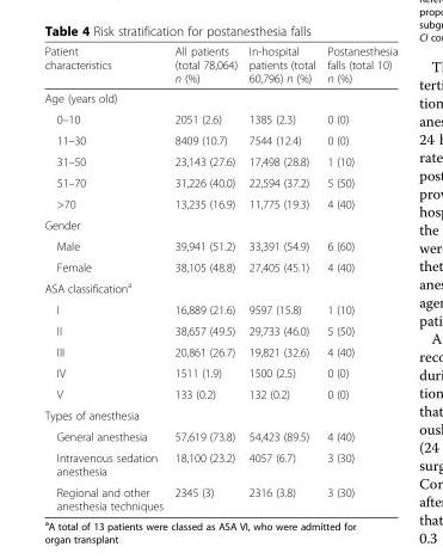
<table><thead><tr><td>Patient characteristics</td><td>All patients (total 78,064) n (%)</td><td>In-hospital patients (total 60,796) n (%)</td><td>Postanesthesia falls (total 10) n (%)</td></tr></thead><tbody><tr><td colspan="4">Age (years old)</td></tr><tr><td>0–10</td><td>2051 (2.6)</td><td>1385 (2.3)</td><td>0 (0)</td></tr><tr><td>11–30</td><td>8409 (10.7)</td><td>7544 (12.4)</td><td>0 (0)</td></tr><tr><td>31–50</td><td>23,143 (27.6)</td><td>17,498 (28.8)</td><td>1 (10)</td></tr><tr><td>51–70</td><td>31,226 (40.0)</td><td>22,594 (37.2)</td><td>5 (50)</td></tr><tr><td>&gt;70</td><td>13,235 (16.9)</td><td>11,775 (19.3)</td><td>4 (40)</td></tr><tr><td colspan="4">Gender</td></tr><tr><td>Male</td><td>39,941 (51.2)</td><td>33,391 (54.9)</td><td>6 (60)</td></tr><tr><td>Female</td><td>38,105 (48.8)</td><td>27,405 (45.1)</td><td>4 (40)</td></tr><tr><td colspan="4">ASA classification<sup>a</sup></td></tr><tr><td>I</td><td>16,889 (21.6)</td><td>9597 (15.8)</td><td>1 (10)</td></tr><tr><td>II</td><td>38,657 (49.5)</td><td>29,733 (46.0)</td><td>5 (50)</td></tr><tr><td>III</td><td>20,861 (26.7)</td><td>19,821 (32.6)</td><td>4 (40)</td></tr><tr><td>IV</td><td>1511 (1.9)</td><td>1500 (2.5)</td><td>0 (0)</td></tr><tr><td>V</td><td>133 (0.2)</td><td>132 (0.2)</td><td>0 (0)</td></tr><tr><td colspan="4">Types of anesthesia</td></tr><tr><td>General anesthesia</td><td>57,619 (73.8)</td><td>54,423 (89.5)</td><td>4 (40)</td></tr><tr><td>Intravenous sedation anesthesia</td><td>18,100 (23.2)</td><td>4057 (6.7)</td><td>3 (30)</td></tr><tr><td>Regional and other anesthesia techniques</td><td>2345 (3)</td><td>2316 (3.8)</td><td>3 (30)</td></tr></tbody></table>